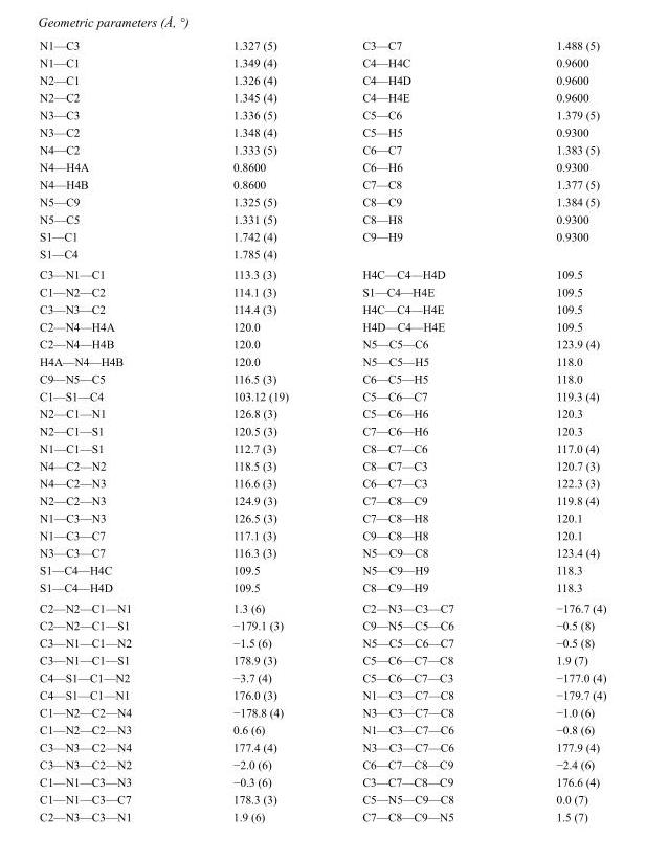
<table><tbody><tr><td>N1—C3</td><td>1.327 (5)</td><td>C3—C7</td><td>1.488 (5)</td></tr><tr><td>N1—C1</td><td>1.349 (4)</td><td>C4—H4C</td><td>0.9600</td></tr><tr><td>N2—C1</td><td>1.326 (4)</td><td>C4—H4D</td><td>0.9600</td></tr><tr><td>N2—C2</td><td>1.345 (4)</td><td>C4—H4E</td><td>0.9600</td></tr><tr><td>N3—C3</td><td>1.336 (5)</td><td>C5—C6</td><td>1.379 (5)</td></tr><tr><td>N3—C2</td><td>1.348 (4)</td><td>C5—H5</td><td>0.9300</td></tr><tr><td>N4—C2</td><td>1.333 (5)</td><td>C6—C7</td><td>1.383 (5)</td></tr><tr><td>N4—H4A</td><td>0.8600</td><td>C6—H6</td><td>0.9300</td></tr><tr><td>N4—H4B</td><td>0.8600</td><td>C7—C8</td><td>1.377 (5)</td></tr><tr><td>N5—C9</td><td>1.325 (5)</td><td>C8—C9</td><td>1.384 (5)</td></tr><tr><td>N5—C5</td><td>1.331 (5)</td><td>C8—H8</td><td>0.9300</td></tr><tr><td>S1—C1</td><td>1.742 (4)</td><td>C9—H9</td><td>0.9300</td></tr><tr><td>S1—C4</td><td>1.785 (4)</td><td></td><td></td></tr><tr><td>C3—N1—C1</td><td>113.3 (3)</td><td>H4C—C4—H4D</td><td>109.5</td></tr><tr><td>C1—N2—C2</td><td>114.1 (3)</td><td>S1—C4—H4E</td><td>109.5</td></tr><tr><td>C3—N3—C2</td><td>114.4 (3)</td><td>H4C—C4—H4E</td><td>109.5</td></tr><tr><td>C2—N4—H4A</td><td>120.0</td><td>H4D—C4—H4E</td><td>109.5</td></tr><tr><td>C2—N4—H4B</td><td>120.0</td><td>N5—C5—C6</td><td>123.9 (4)</td></tr><tr><td>H4A—N4—H4B</td><td>120.0</td><td>N5—C5—H5</td><td>118.0</td></tr><tr><td>C9—N5—C5</td><td>116.5 (3)</td><td>C6—C5—H5</td><td>118.0</td></tr><tr><td>C1—S1—C4</td><td>103.12 (19)</td><td>C5—C6—C7</td><td>119.3 (4)</td></tr><tr><td>N2—C1—N1</td><td>126.8 (3)</td><td>C5—C6—H6</td><td>120.3</td></tr><tr><td>N2—C1—S1</td><td>120.5 (3)</td><td>C7—C6—H6</td><td>120.3</td></tr><tr><td>N1—C1—S1</td><td>112.7 (3)</td><td>C8—C7—C6</td><td>117.0 (4)</td></tr><tr><td>N4—C2—N2</td><td>118.5 (3)</td><td>C8—C7—C3</td><td>120.7 (3)</td></tr><tr><td>N4—C2—N3</td><td>116.6 (3)</td><td>C6—C7—C3</td><td>122.3 (3)</td></tr><tr><td>N2—C2—N3</td><td>124.9 (3)</td><td>C7—C8—C9</td><td>119.8 (4)</td></tr><tr><td>N1—C3—N3</td><td>126.5 (3)</td><td>C7—C8—H8</td><td>120.1</td></tr><tr><td>N1—C3—C7</td><td>117.1 (3)</td><td>C9—C8—H8</td><td>120.1</td></tr><tr><td>N3—C3—C7</td><td>116.3 (3)</td><td>N5—C9—C8</td><td>123.4 (4)</td></tr><tr><td>S1—C4—H4C</td><td>109.5</td><td>N5—C9—H9</td><td>118.3</td></tr><tr><td>S1—C4—H4D</td><td>109.5</td><td>C8—C9—H9</td><td>118.3</td></tr><tr><td>C2—N2—C1—N1</td><td>1.3 (6)</td><td>C2—N3—C3—C7</td><td>−176.7 (4)</td></tr><tr><td>C2—N2—C1—S1</td><td>−179.1 (3)</td><td>C9—N5—C5—C6</td><td>−0.5 (8)</td></tr><tr><td>C3—N1—C1—N2</td><td>−1.5 (6)</td><td>N5—C5—C6—C7</td><td>−0.5 (8)</td></tr><tr><td>C3—N1—C1—S1</td><td>178.9 (3)</td><td>C5—C6—C7—C8</td><td>1.9 (7)</td></tr><tr><td>C4—S1—C1—N2</td><td>−3.7 (4)</td><td>C5—C6—C7—C3</td><td>−177.0 (4)</td></tr><tr><td>C4—S1—C1—N1</td><td>176.0 (3)</td><td>N1—C3—C7—C8</td><td>−179.7 (4)</td></tr><tr><td>C1—N2—C2—N4</td><td>−178.8 (4)</td><td>N3—C3—C7—C8</td><td>−1.0 (6)</td></tr><tr><td>C1—N2—C2—N3</td><td>0.6 (6)</td><td>N1—C3—C7—C6</td><td>−0.8 (6)</td></tr><tr><td>C3—N3—C2—N4</td><td>177.4 (4)</td><td>N3—C3—C7—C6</td><td>177.9 (4)</td></tr><tr><td>C3—N3—C2—N2</td><td>−2.0 (6)</td><td>C6—C7—C8—C9</td><td>−2.4 (6)</td></tr><tr><td>C1—N1—C3—N3</td><td>−0.3 (6)</td><td>C3—C7—C8—C9</td><td>176.6 (4)</td></tr><tr><td>C1—N1—C3—C7</td><td>178.3 (3)</td><td>C5—N5—C9—C8</td><td>0.0 (7)</td></tr><tr><td>C2—N3—C3—N1</td><td>1.9 (6)</td><td>C7—C8—C9—N5</td><td>1.5 (7)</td></tr></tbody></table>